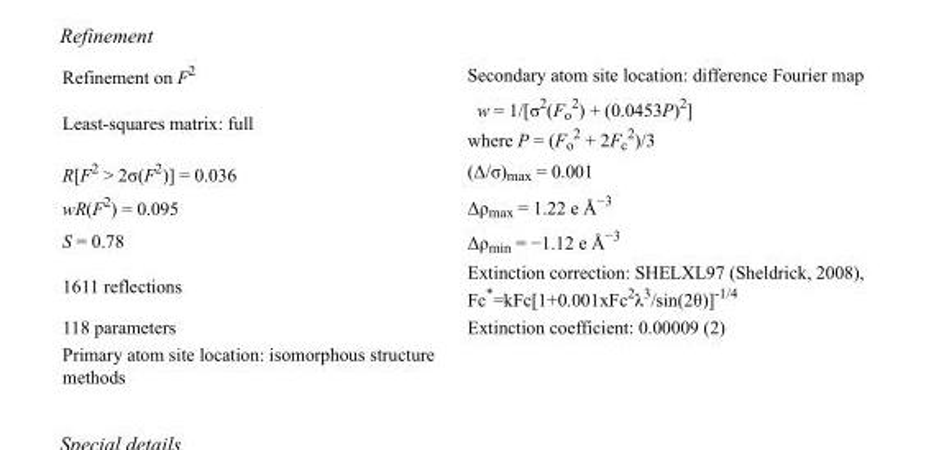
<table><tbody><tr><td>Refinement on F<sup>2</sup></td><td>Secondary atom site location: difference Fourier map</td></tr><tr><td>Least-squares matrix: full</td><td>w = 1/[σ<sup>2</sup>(F<sub>o</sub> <sup>2</sup>) + (0.0453P)<sup>2</sup>] where P = (F<sub>o</sub> <sup>2</sup> + 2F<sub>c</sub> <sup>2</sup>)/3</td></tr><tr><td>R[F<sup>2</sup> &gt; 2σ(F<sup>2</sup>)] = 0.036</td><td>(Δ/σ)<sub>max</sub> = 0.001</td></tr><tr><td>wR(F<sup>2</sup>) = 0.095</td><td>Δρ<sub>max</sub> = 1.22 e Å<sup>−3</sup></td></tr><tr><td>S = 0.78</td><td>Δρ<sub>min</sub> = −1.12 e Å<sup>−3</sup></td></tr><tr><td>1611 reflections</td><td>Extinction correction: SHELXL97 (Sheldrick, 2008), Fc*=kFc[1+0.001xFc<sup>2</sup>λ<sup>3</sup>/sin(2θ)]<sup>-1/4</sup></td></tr><tr><td>118 parameters</td><td>Extinction coefficient: 0.00009 (2)</td></tr><tr><td>Primary atom site location: isomorphous structure methods</td><td></td></tr></tbody></table>